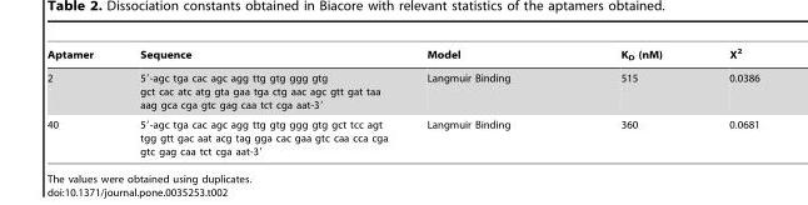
<table><thead><tr><td>Aptamer</td><td>Sequence</td><td>Model</td><td>K<sub>D</sub> (nM)</td><td>X<sup>2</sup></td></tr></thead><tbody><tr><td>2</td><td>5′-agc tga cac agc agg ttg gtg ggg gtg gct cac atc atg gta gaa tga ctg aac agc gtt gat taa aag gca cga gtc gag caa tct cga aat-3′</td><td>Langmuir Binding</td><td>515</td><td>0.0386</td></tr><tr><td>40</td><td>5′-agc tga cac agc agg ttg gtg ggg gtg gct tcc agt tgg gtt gac aat acg tag gga cac gaa gtc caa cca cga gtc gag caa tct cga aat-3′</td><td>Langmuir Binding</td><td>360</td><td>0.0681</td></tr></tbody></table>